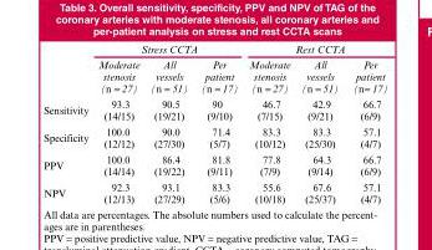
<table><thead><tr><td rowspan="2"></td><td colspan="3">Stress CCTA</td><td colspan="3">Rest CCTA</td></tr><tr><td>Moderate stenosis (n = 27)</td><td>All vessels (n = 51)</td><td>Per patient (n = 17)</td><td>Moderate stenosis (n = 27)</td><td>All vessels (n = 51)</td><td>Per patient (n= 17)</td></tr></thead><tbody><tr><td>Sensitivity</td><td>93.3 (14/15)</td><td>90.5 (19/21)</td><td>90 (9/10)</td><td>46.7 (7/15)</td><td>42.9 (9/21)</td><td>66.7 (6/9)</td></tr><tr><td>Specificity</td><td>100.0 (12/12)</td><td>90.0 (27/30)</td><td>71.4 (5/7)</td><td>83.3 (10/12)</td><td>83.3 (25/30)</td><td>57.1 (4/7)</td></tr><tr><td>PPV</td><td>100.0 (14/14)</td><td>86.4 (19/22)</td><td>81.8 (9/11)</td><td>77.8 (7/9)</td><td>64.3 (9/14)</td><td>66.7 (6/9)</td></tr><tr><td>NPV</td><td>92.3 (12/13)</td><td>93.1 (27/29)</td><td>83.3 (5/6)</td><td>55.6 (10/18)</td><td>67.6 (25/37)</td><td>57.1 (4/7)</td></tr></tbody></table>